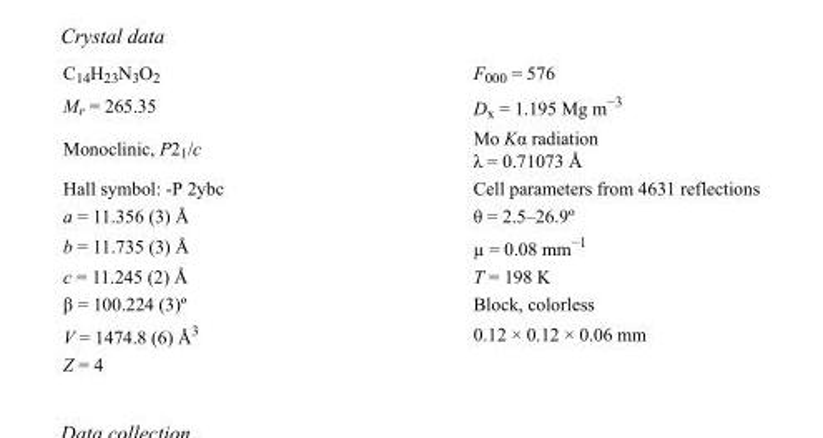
<table><tbody><tr><td>C<sub>14</sub>H<sub>23</sub>N<sub>3</sub>O<sub>2</sub></td><td>F000 = 576</td></tr><tr><td>M<sub>r</sub> = 265.35</td><td>D<sub>x</sub> = 1.195 Mg m<sup>−3</sup></td></tr><tr><td>Monoclinic, P2<sub>1</sub>/c</td><td>Mo Kα radiation λ = 0.71073 Å</td></tr><tr><td>Hall symbol: -P 2ybc</td><td>Cell parameters from 4631 reflections</td></tr><tr><td>a = 11.356 (3) Å</td><td>θ = 2.5–26.9º</td></tr><tr><td>b = 11.735 (3) Å</td><td>µ = 0.08 mm<sup>−1</sup></td></tr><tr><td>c = 11.245 (2) Å</td><td>T = 198 K</td></tr><tr><td>β = 100.224 (3)º</td><td>Block, colorless</td></tr><tr><td>V = 1474.8 (6) Å<sup>3</sup></td><td>0.12 × 0.12 × 0.06 mm</td></tr><tr><td>Z = 4</td><td></td></tr></tbody></table>